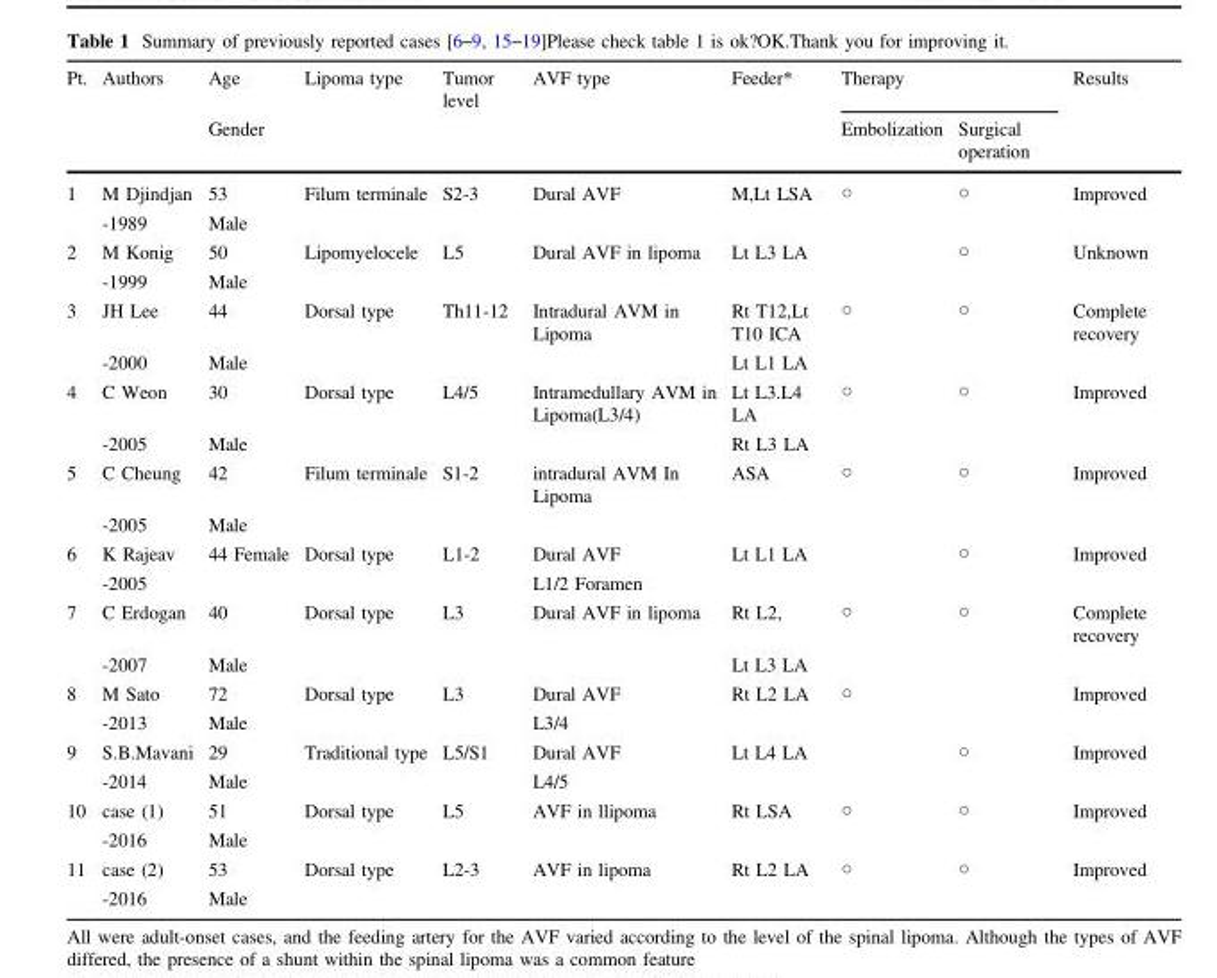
<table><thead><tr><td rowspan="2">Pt.</td><td rowspan="2">Authors</td><td rowspan="2">Age Gender</td><td rowspan="2">Lipoma type</td><td rowspan="2">Tumor level</td><td rowspan="2">AVF type</td><td rowspan="2">Feeder*</td><td colspan="2">Therapy</td><td rowspan="2">Results</td></tr><tr><td>Embolization</td><td>Surgical operation</td></tr></thead><tbody><tr><td rowspan="2">1</td><td>M Djindjan</td><td>53</td><td>Filum terminale</td><td>S2-3</td><td>Dural AVF</td><td>M,Lt LSA</td><td>○</td><td>○</td><td>Improved</td></tr><tr><td>-1989</td><td>Male</td><td></td><td></td><td></td><td></td><td></td><td></td><td></td></tr><tr><td rowspan="2">2</td><td>M Konig</td><td>50</td><td>Lipomyelocele</td><td>L5</td><td>Dural AVF in lipoma</td><td>Lt L3 LA</td><td></td><td>○</td><td>Unknown</td></tr><tr><td>-1999</td><td>Male</td><td></td><td></td><td></td><td></td><td></td><td></td><td></td></tr><tr><td rowspan="2">3</td><td>JH Lee</td><td>44</td><td>Dorsal type</td><td>Th11-12</td><td>Intradural AVM in Lipoma</td><td>Rt T12,Lt T10 ICA</td><td>○</td><td>○</td><td>Complete recovery</td></tr><tr><td>-2000</td><td>Male</td><td></td><td></td><td></td><td>Lt L1 LA</td><td></td><td></td><td></td></tr><tr><td rowspan="2">4</td><td>C Weon</td><td>30</td><td>Dorsal type</td><td>L4/5</td><td>Intramedullary AVM in Lipoma(L3/4)</td><td>Lt L3.L4 LA</td><td>○</td><td>○</td><td>Improved</td></tr><tr><td>-2005</td><td>Male</td><td></td><td></td><td></td><td>Rt L3 LA</td><td></td><td></td><td></td></tr><tr><td rowspan="2">5</td><td>C Cheung</td><td>42</td><td>Filum terminale</td><td>S1-2</td><td>intradural AVM In Lipoma</td><td>ASA</td><td>○</td><td>○</td><td>Improved</td></tr><tr><td>-2005</td><td>Male</td><td></td><td></td><td></td><td></td><td></td><td></td><td></td></tr><tr><td rowspan="2">6</td><td>K Rajeav</td><td>44 Female</td><td>Dorsal type</td><td>L1-2</td><td>Dural AVF</td><td>Lt L1 LA</td><td></td><td>○</td><td>Improved</td></tr><tr><td>-2005</td><td></td><td></td><td></td><td>L1/2 Foramen</td><td></td><td></td><td></td><td></td></tr><tr><td rowspan="2">7</td><td>C Erdogan</td><td>40</td><td>Dorsal type</td><td>L3</td><td>Dural AVF in lipoma</td><td>Rt L2,</td><td>○</td><td>○</td><td>Complete recovery</td></tr><tr><td>-2007</td><td>Male</td><td></td><td></td><td></td><td>Lt L3 LA</td><td></td><td></td><td></td></tr><tr><td rowspan="2">8</td><td>M Sato</td><td>72</td><td>Dorsal type</td><td>L3</td><td>Dural AVF</td><td>Rt L2 LA</td><td>○</td><td></td><td>Improved</td></tr><tr><td>-2013</td><td>Male</td><td></td><td></td><td>L3/4</td><td></td><td></td><td></td><td></td></tr><tr><td rowspan="2">9</td><td>S.B.Mavani</td><td>29</td><td>Traditional type</td><td>L5/S1</td><td>Dural AVF</td><td>Lt L4 LA</td><td></td><td>○</td><td>Improved</td></tr><tr><td>-2014</td><td>Male</td><td></td><td></td><td>L4/5</td><td></td><td></td><td></td><td></td></tr><tr><td rowspan="2">10</td><td>case (1)</td><td>51</td><td>Dorsal type</td><td>L5</td><td>AVF in llipoma</td><td>Rt LSA</td><td>○</td><td>○</td><td>Improved</td></tr><tr><td>-2016</td><td>Male</td><td></td><td></td><td></td><td></td><td></td><td></td><td></td></tr><tr><td rowspan="2">11</td><td>case (2)</td><td>53</td><td>Dorsal type</td><td>L2-3</td><td>AVF in lipoma</td><td>Rt L2 LA</td><td>○</td><td>○</td><td>Improved</td></tr><tr><td>-2016</td><td>Male</td><td></td><td></td><td></td><td></td><td></td><td></td><td></td></tr></tbody></table>